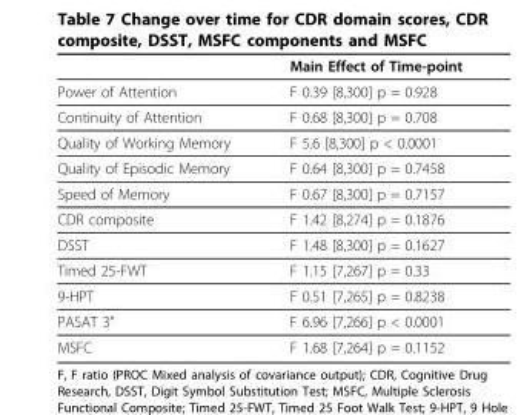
<table><thead><tr><td></td><td>Main Effect of Time-point</td></tr></thead><tbody><tr><td>Power of Attention</td><td>F 0.39 [8,300] p = 0.928</td></tr><tr><td>Continuity of Attention</td><td>F 0.68 [8,300] p = 0.708</td></tr><tr><td>Quality of Working Memory</td><td>F 5.6 [8,300] p &lt; 0.0001</td></tr><tr><td>Quality of Episodic Memory</td><td>F 0.64 [8,300] p = 0.7458</td></tr><tr><td>Speed of Memory</td><td>F 0.67 [8,300] p = 0.7157</td></tr><tr><td>CDR composite</td><td>F 1.42 [8,274] p = 0.1876</td></tr><tr><td>DSST</td><td>F 1.48 [8,300] p = 0.1627</td></tr><tr><td>Timed 25-FWT</td><td>F 1.15 [7,267] p = 0.33</td></tr><tr><td>9-HPT</td><td>F 0.51 [7,265] p = 0.8238</td></tr><tr><td>PASAT 3”</td><td>F 6.96 [7,266] p &lt; 0.0001</td></tr><tr><td>MSFC</td><td>F 1.68 [7,264] p = 0.1152</td></tr></tbody></table>